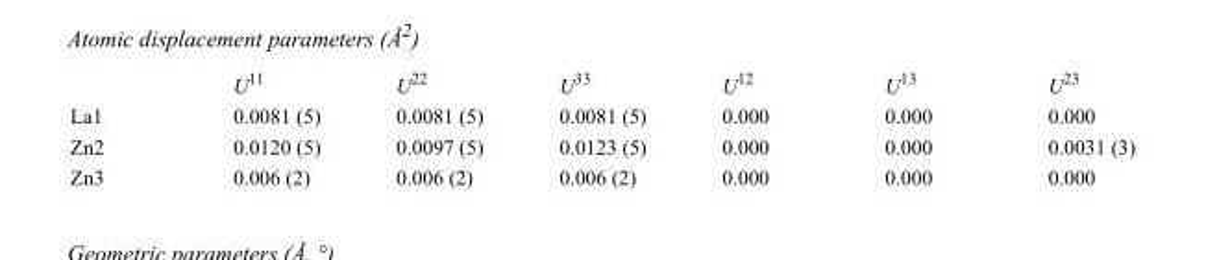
<table><thead><tr><td></td><td>U<sup>11</sup></td><td>U<sup>22</sup></td><td>U<sup>33</sup></td><td>U<sup>12</sup></td><td>U<sup>13</sup></td><td>U<sup>23</sup></td></tr></thead><tbody><tr><td>La1</td><td>0.0081 (5)</td><td>0.0081 (5)</td><td>0.0081 (5)</td><td>0.000</td><td>0.000</td><td>0.000</td></tr><tr><td>Zn2</td><td>0.0120 (5)</td><td>0.0097 (5)</td><td>0.0123 (5)</td><td>0.000</td><td>0.000</td><td>0.0031 (3)</td></tr><tr><td>Zn3</td><td>0.006 (2)</td><td>0.006 (2)</td><td>0.006 (2)</td><td>0.000</td><td>0.000</td><td>0.000</td></tr></tbody></table>